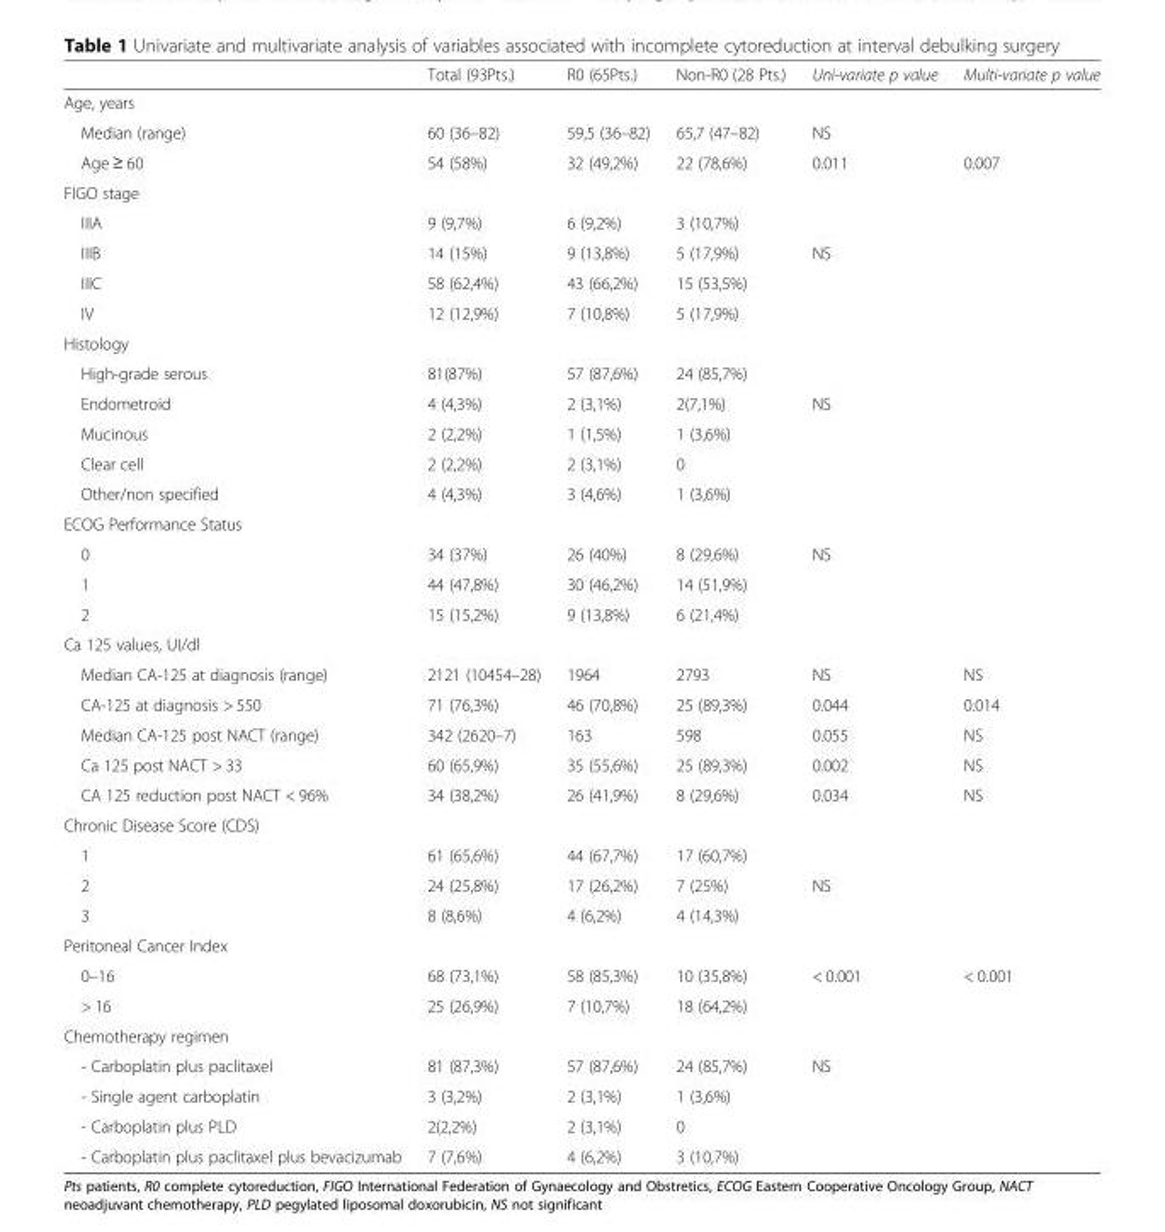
<table><thead><tr><td></td><td>Total (93Pts.)</td><td>R0 (65Pts.)</td><td>Non-R0 (28 Pts.)</td><td>Uni-variate p value</td><td>Multi-variate p value</td></tr></thead><tbody><tr><td colspan="6">Age, years</td></tr><tr><td>Median (range)</td><td>60 (36–82)</td><td>59,5 (36–82)</td><td>65,7 (47–82)</td><td>NS</td><td></td></tr><tr><td>Age ≥ 60</td><td>54 (58%)</td><td>32 (49,2%)</td><td>22 (78,6%)</td><td>0.011</td><td>0.007</td></tr><tr><td colspan="6">FIGO stage</td></tr><tr><td>IIIA</td><td>9 (9,7%)</td><td>6 (9,2%)</td><td>3 (10,7%)</td><td></td><td></td></tr><tr><td>IIIB</td><td>14 (15%)</td><td>9 (13,8%)</td><td>5 (17,9%)</td><td>NS</td><td></td></tr><tr><td>IIIC</td><td>58 (62,4%)</td><td>43 (66,2%)</td><td>15 (53,5%)</td><td></td><td></td></tr><tr><td>IV</td><td>12 (12,9%)</td><td>7 (10,8%)</td><td>5 (17,9%)</td><td></td><td></td></tr><tr><td colspan="6">Histology</td></tr><tr><td>High-grade serous</td><td>81(87%)</td><td>57 (87,6%)</td><td>24 (85,7%)</td><td></td><td></td></tr><tr><td>Endometroid</td><td>4 (4,3%)</td><td>2 (3,1%)</td><td>2(7,1%)</td><td>NS</td><td></td></tr><tr><td>Mucinous</td><td>2 (2,2%)</td><td>1 (1,5%)</td><td>1 (3,6%)</td><td></td><td></td></tr><tr><td>Clear cell</td><td>2 (2,2%)</td><td>2 (3,1%)</td><td>0</td><td></td><td></td></tr><tr><td>Other/non specified</td><td>4 (4,3%)</td><td>3 (4,6%)</td><td>1 (3,6%)</td><td></td><td></td></tr><tr><td colspan="6">ECOG Performance Status</td></tr><tr><td>0</td><td>34 (37%)</td><td>26 (40%)</td><td>8 (29,6%)</td><td>NS</td><td></td></tr><tr><td>1</td><td>44 (47,8%)</td><td>30 (46,2%)</td><td>14 (51,9%)</td><td></td><td></td></tr><tr><td>2</td><td>15 (15,2%)</td><td>9 (13,8%)</td><td>6 (21,4%)</td><td></td><td></td></tr><tr><td colspan="6">Ca 125 values, UI/dl</td></tr><tr><td>Median CA-125 at diagnosis (range)</td><td>2121 (10454–28)</td><td>1964</td><td>2793</td><td>NS</td><td>NS</td></tr><tr><td>CA-125 at diagnosis &gt; 550</td><td>71 (76,3%)</td><td>46 (70,8%)</td><td>25 (89,3%)</td><td>0.044</td><td>0.014</td></tr><tr><td>Median CA-125 post NACT (range)</td><td>342 (2620–7)</td><td>163</td><td>598</td><td>0.055</td><td>NS</td></tr><tr><td>Ca 125 post NACT &gt; 33</td><td>60 (65,9%)</td><td>35 (55,6%)</td><td>25 (89,3%)</td><td>0.002</td><td>NS</td></tr><tr><td>CA 125 reduction post NACT &lt; 96%</td><td>34 (38,2%)</td><td>26 (41,9%)</td><td>8 (29,6%)</td><td>0.034</td><td>NS</td></tr><tr><td colspan="6">Chronic Disease Score (CDS)</td></tr><tr><td>1</td><td>61 (65,6%)</td><td>44 (67,7%)</td><td>17 (60,7%)</td><td></td><td></td></tr><tr><td>2</td><td>24 (25,8%)</td><td>17 (26,2%)</td><td>7 (25%)</td><td>NS</td><td></td></tr><tr><td>3</td><td>8 (8,6%)</td><td>4 (6,2%)</td><td>4 (14,3%)</td><td></td><td></td></tr><tr><td colspan="6">Peritoneal Cancer Index</td></tr><tr><td>0–16</td><td>68 (73,1%)</td><td>58 (85,3%)</td><td>10 (35,8%)</td><td rowspan="2">&lt; 0.001</td><td rowspan="2">&lt; 0.001</td></tr><tr><td>&gt; 16</td><td>25 (26,9%)</td><td>7 (10,7%)</td><td>18 (64,2%)</td></tr><tr><td colspan="6">Chemotherapy regimen</td></tr><tr><td>- Carboplatin plus paclitaxel</td><td>81 (87,3%)</td><td>57 (87,6%)</td><td>24 (85,7%)</td><td rowspan="4">NS</td><td rowspan="4"></td></tr><tr><td>- Single agent carboplatin</td><td>3 (3,2%)</td><td>2 (3,1%)</td><td>1 (3,6%)</td></tr><tr><td>- Carboplatin plus PLD</td><td>2(2,2%)</td><td>2 (3,1%)</td><td>0</td></tr><tr><td>- Carboplatin plus paclitaxel plus bevacizumab</td><td>7 (7,6%)</td><td>4 (6,2%)</td><td>3 (10,7%)</td></tr></tbody></table>